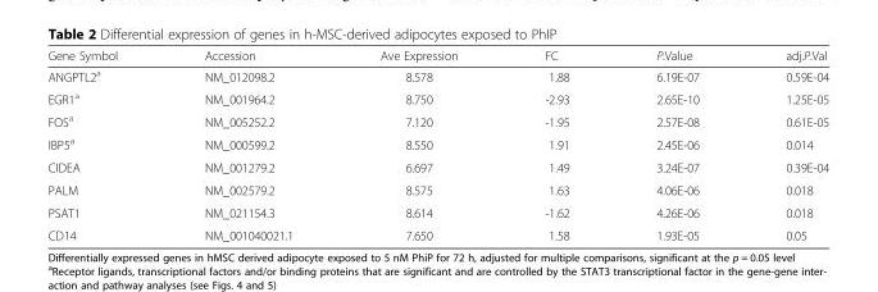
<table><thead><tr><td>Gene Symbol</td><td>Accession</td><td>Ave Expression</td><td>FC</td><td>P.Value</td><td>adj.P.Val</td></tr></thead><tbody><tr><td>ANGPTL2<sup>a</sup></td><td>NM_012098.2</td><td>8.578</td><td>1.88</td><td>6.19E-07</td><td>0.59E-04</td></tr><tr><td>EGR1<sup>a</sup></td><td>NM_001964.2</td><td>8.750</td><td>-2.93</td><td>2.65E-10</td><td>1.25E-05</td></tr><tr><td>FOS<sup>a</sup></td><td>NM_005252.2</td><td>7.120</td><td>-1.95</td><td>2.57E-08</td><td>0.61E-05</td></tr><tr><td>IBP5<sup>a</sup></td><td>NM_000599.2</td><td>8.550</td><td>1.91</td><td>2.45E-06</td><td>0.014</td></tr><tr><td>CIDEA</td><td>NM_001279.2</td><td>6.697</td><td>1.49</td><td>3.24E-07</td><td>0.39E-04</td></tr><tr><td>PALM</td><td>NM_002579.2</td><td>8.575</td><td>1.63</td><td>4.06E-06</td><td>0.018</td></tr><tr><td>PSAT1</td><td>NM_021154.3</td><td>8.614</td><td>-1.62</td><td>4.26E-06</td><td>0.018</td></tr><tr><td>CD14</td><td>NM_001040021.1</td><td>7.650</td><td>1.58</td><td>1.93E-05</td><td>0.05</td></tr></tbody></table>